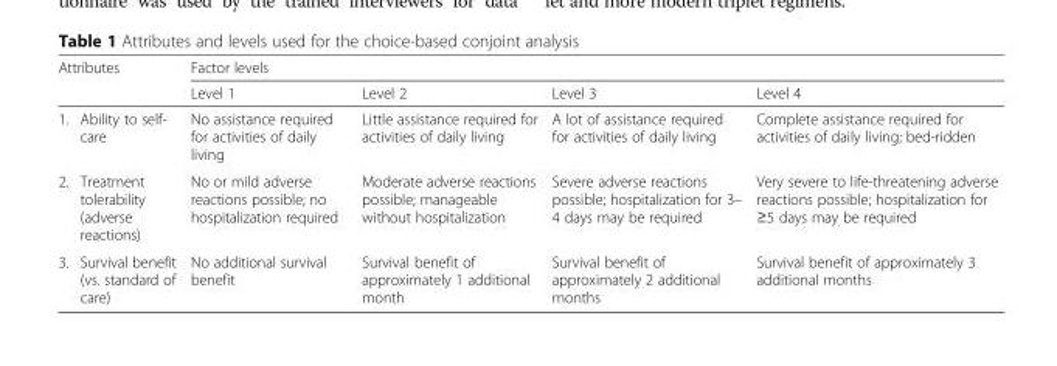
<table><thead><tr><td rowspan="2" colspan="2">Attributes</td><td colspan="4">Factor levels</td></tr><tr><td rowspan="2">Level 1 No assistance required for activities of daily living</td><td rowspan="2">Level 2 Little assistance required for activities of daily living</td><td rowspan="2">Level 3 A lot of assistance required for activities of daily living</td><td rowspan="2">Level 4 Complete assistance required for activities of daily living; bed-ridden</td></tr><tr><td>1.</td><td>Ability to self- care</td></tr></thead><tbody><tr><td>2.</td><td>Treatment tolerability (adverse reactions)</td><td>No or mild adverse reactions possible; no hospitalization required</td><td>Moderate adverse reactions possible; manageable without hospitalization</td><td>Severe adverse reactions possible; hospitalization for 3– 4 days may be required</td><td>Very severe to life-threatening adverse reactions possible; hospitalization for ≥5 days may be required</td></tr><tr><td>3.</td><td>Survival benefit (vs. standard of care)</td><td>No additional survival benefit</td><td>Survival benefit of approximately 1 additional month</td><td>Survival benefit of approximately 2 additional months</td><td>Survival benefit of approximately 3 additional months</td></tr></tbody></table>